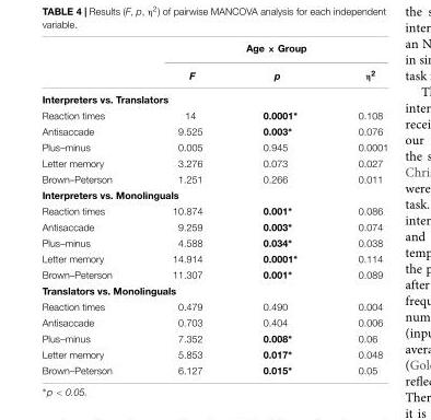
<table><thead><tr><td rowspan="2"></td><td colspan="3">Age × Group</td></tr><tr><td>F</td><td>p</td><td>η<sup>2</sup></td></tr></thead><tbody><tr><td colspan="4">Interpreters vs. Translators</td></tr><tr><td>Reaction times</td><td>14</td><td>0.0001∗</td><td>0.108</td></tr><tr><td>Antisaccade</td><td>9.525</td><td>0.003∗</td><td>0.076</td></tr><tr><td>Plus–minus</td><td>0.005</td><td>0.945</td><td>0.0001</td></tr><tr><td>Letter memory</td><td>3.276</td><td>0.073</td><td>0.027</td></tr><tr><td>Brown–Peterson</td><td>1.251</td><td>0.266</td><td>0.011</td></tr><tr><td colspan="4">Interpreters vs. Monolinguals</td></tr><tr><td>Reaction times</td><td>10.874</td><td>0.001∗</td><td>0.086</td></tr><tr><td>Antisaccade</td><td>9.259</td><td>0.003∗</td><td>0.074</td></tr><tr><td>Plus–minus</td><td>4.588</td><td>0.034∗</td><td>0.038</td></tr><tr><td>Letter memory</td><td>14.914</td><td>0.0001∗</td><td>0.114</td></tr><tr><td>Brown–Peterson</td><td>11.307</td><td>0.001∗</td><td>0.089</td></tr><tr><td colspan="4">Translators vs. Monolinguals</td></tr><tr><td>Reaction times</td><td>0.479</td><td>0.490</td><td>0.004</td></tr><tr><td>Antisaccade</td><td>0.703</td><td>0.404</td><td>0.006</td></tr><tr><td>Plus–minus</td><td>7.352</td><td>0.008∗</td><td>0.06</td></tr><tr><td>Letter memory</td><td>5.853</td><td>0.017∗</td><td>0.048</td></tr><tr><td>Brown–Peterson</td><td>6.127</td><td>0.015∗</td><td>0.05</td></tr></tbody></table>